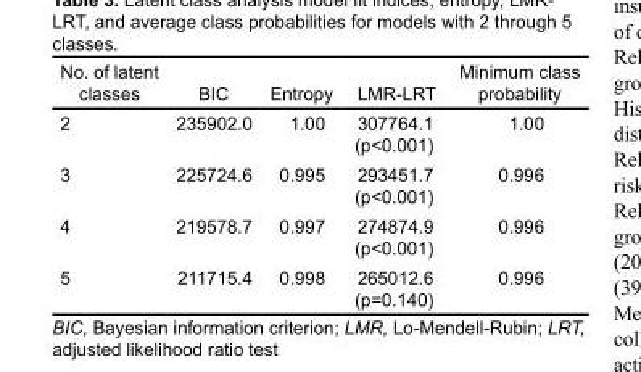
<table><thead><tr><td>No. of latent classes</td><td>BIC</td><td>Entropy</td><td>LMR-LRT</td><td>Minimum class probability</td></tr></thead><tbody><tr><td>2</td><td>235902.0</td><td>1.00</td><td>307764.1 (p&lt;0.001)</td><td>1.00</td></tr><tr><td>3</td><td>225724.6</td><td>0.995</td><td>293451.7 (p&lt;0.001)</td><td>0.996</td></tr><tr><td>4</td><td>219578.7</td><td>0.997</td><td>274874.9 (p&lt;0.001)</td><td>0.996</td></tr><tr><td>5</td><td>211715.4</td><td>0.998</td><td>265012.6 (p=0.140)</td><td>0.996</td></tr></tbody></table>